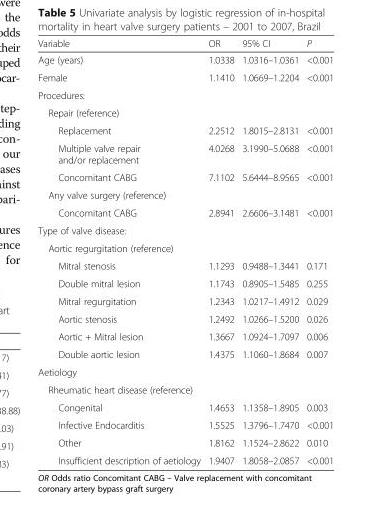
<table><thead><tr><td>Variable</td><td>OR</td><td>95% CI</td><td>P</td></tr></thead><tbody><tr><td>Age (years)</td><td>1.0338</td><td>1.0316–1.0361</td><td>&lt;0.001</td></tr><tr><td>Female</td><td>1.1410</td><td>1.0669–1.2204</td><td>&lt;0.001</td></tr><tr><td colspan="4">Procedures:</td></tr><tr><td colspan="4">Repair (reference)</td></tr><tr><td>Replacement</td><td>2.2512</td><td>1.8015–2.8131</td><td>&lt;0.001</td></tr><tr><td>Multiple valve repair and/or replacement</td><td>4.0268</td><td>3.1990–5.0688</td><td>&lt;0.001</td></tr><tr><td>Concomitant CABG</td><td>7.1102</td><td>5.6444–8.9565</td><td>&lt;0.001</td></tr><tr><td colspan="4">Any valve surgery (reference)</td></tr><tr><td>Concomitant CABG</td><td>2.8941</td><td>2.6606–3.1481</td><td>&lt;0.001</td></tr><tr><td colspan="4">Type of valve disease:</td></tr><tr><td colspan="4">Aortic regurgitation (reference)</td></tr><tr><td>Mitral stenosis</td><td>1.1293</td><td>0.9488–1.3441</td><td>0.171</td></tr><tr><td>Double mitral lesion</td><td>1.1743</td><td>0.8905–1.5485</td><td>0.255</td></tr><tr><td>Mitral regurgitation</td><td>1.2343</td><td>1.0217–1.4912</td><td>0.029</td></tr><tr><td>Aortic stenosis</td><td>1.2492</td><td>1.0266–1.5200</td><td>0.026</td></tr><tr><td>Aortic + Mitral lesion</td><td>1.3667</td><td>1.0924–1.7097</td><td>0.006</td></tr><tr><td>Double aortic lesion</td><td>1.4375</td><td>1.1060–1.8684</td><td>0.007</td></tr><tr><td colspan="4">Aetiology</td></tr><tr><td colspan="4">Rheumatic heart disease (reference)</td></tr><tr><td>Congenital</td><td>1.4653</td><td>1.1358–1.8905</td><td>0.003</td></tr><tr><td>Infective Endocarditis</td><td>1.5525</td><td>1.3796–1.7470</td><td>&lt;0.001</td></tr><tr><td>Other</td><td>1.8162</td><td>1.1524–2.8622</td><td>0.010</td></tr><tr><td>Insufficient description of aetiology</td><td>1.9407</td><td>1.8058–2.0857</td><td>&lt;0.001</td></tr></tbody></table>